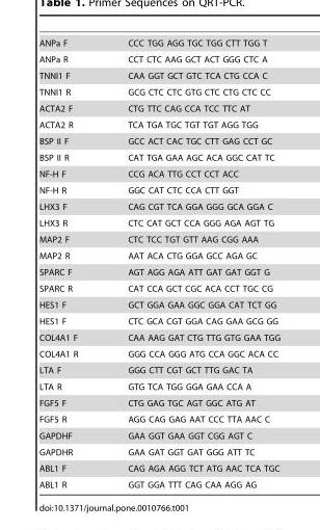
<table><tbody><tr><td>ANPa F</td><td>CCC TGG AGG TGC TGG CTT TGG T</td></tr><tr><td>ANPa R</td><td>CCT CTC AAG GCT ACT GGG CTC A</td></tr><tr><td>TNNI1 F</td><td>CAA GGT GCT GTC TCA CTG CCA C</td></tr><tr><td>TNNI1 R</td><td>GCG CTC CTC GTG CTC CTG CTC CC</td></tr><tr><td>ACTA2 F</td><td>CTG TTC CAG CCA TCC TTC AT</td></tr><tr><td>ACTA2 R</td><td>TCA TGA TGC TGT TGT AGG TGG</td></tr><tr><td>BSP II F</td><td>GCC ACT CAC TGC CTT GAG CCT GC</td></tr><tr><td>BSP II R</td><td>CAT TGA GAA AGC ACA GGC CAT TC</td></tr><tr><td>NF-H F</td><td>CCG ACA TTG CCT CCT ACC</td></tr><tr><td>NF-H R</td><td>GGC CAT CTC CCA CTT GGT</td></tr><tr><td>LHX3 F</td><td>CAG CGT TCA GGA GGG GCA GGA C</td></tr><tr><td>LHX3 R</td><td>CTC CAT GCT CCA GGG AGA AGT TG</td></tr><tr><td>MAP2 F</td><td>CTC TCC TGT GTT AAG CGG AAA</td></tr><tr><td>MAP2 R</td><td>AAT ACA CTG GGA GCC AGA GC</td></tr><tr><td>SPARC F</td><td>AGT AGG AGA ATT GAT GAT GGT G</td></tr><tr><td>SPARC R</td><td>CAT CCA GCT CGC ACA CCT TGC CG</td></tr><tr><td>HES1 F</td><td>GCT GGA GAA GGC GGA CAT TCT GG</td></tr><tr><td>HES1 F</td><td>CTC GCA CGT GGA CAG GAA GCG GG</td></tr><tr><td>COL4A1 F</td><td>CAA AAG GAT CTG TTG GTG GAA TGG</td></tr><tr><td>COL4A1 R</td><td>GGG CCA GGG ATG CCA GGC ACA CC</td></tr><tr><td>LTA F</td><td>GGG CTT CGT GCT TTG GAC TA</td></tr><tr><td>LTA R</td><td>GTG TCA TGG GGA GAA CCA A</td></tr><tr><td>FGF5 F</td><td>CTG GAG TGC AGT GGC ATG AT</td></tr><tr><td>FGF5 R</td><td>AGG CAG GAG AAT CCC TTA AAC C</td></tr><tr><td>GAPDHF</td><td>GAA GGT GAA GGT CGG AGT C</td></tr><tr><td>GAPDHR</td><td>GAA GAT GGT GAT GGG ATT TC</td></tr><tr><td>ABL1 F</td><td>CAG AGA AGG TCT ATG AAC TCA TGC</td></tr><tr><td>ABL1 R</td><td>GGT GGA TTT CAG CAA AGG AG</td></tr></tbody></table>